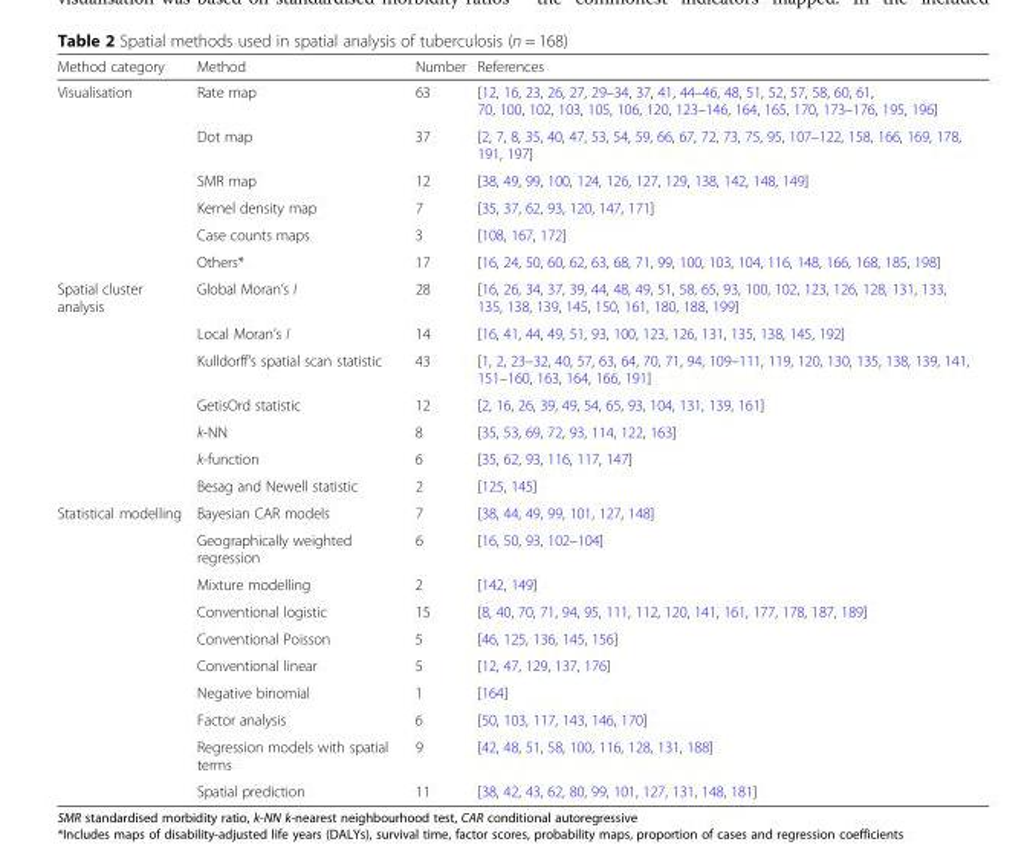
<table><thead><tr><td>Method category</td><td>Method</td><td>Number</td><td>References</td></tr></thead><tbody><tr><td rowspan="6">Visualisation</td><td>Rate map</td><td>63</td><td>[12, 16, 23, 26, 27, 29–34, 37, 41, 44–46, 48, 51, 52, 57, 58, 60, 61, 70, 100, 102, 103, 105, 106, 120, 123–146, 164, 165, 170, 173–176, 195, 196]</td></tr><tr><td>Dot map</td><td>37</td><td>[2, 7, 8, 35, 40, 47, 53, 54, 59, 66, 67, 72, 73, 75, 95, 107–122, 158, 166, 169, 178, 191, 197]</td></tr><tr><td>SMR map</td><td>12</td><td>[38, 49, 99, 100, 124, 126, 127, 129, 138, 142, 148, 149]</td></tr><tr><td>Kernel density map</td><td>7</td><td>[35, 37, 62, 93, 120, 147, 171]</td></tr><tr><td>Case counts maps</td><td>3</td><td>[108, 167, 172]</td></tr><tr><td>Others*</td><td>17</td><td>[16, 24, 50, 60, 62, 63, 68, 71, 99, 100, 103, 104, 116, 148, 166, 168, 185, 198]</td></tr><tr><td rowspan="7">Spatial cluster analysis</td><td>Global Moran’s I</td><td>28</td><td>[16, 26, 34, 37, 39, 44, 48, 49, 51, 58, 65, 93, 100, 102, 123, 126, 128, 131, 133, 135, 138, 139, 145, 150, 161, 180, 188, 199]</td></tr><tr><td>Local Moran’s I</td><td>14</td><td>[16, 41, 44, 49, 51, 93, 100, 123, 126, 131, 135, 138, 145, 192]</td></tr><tr><td>Kulldorff’s spatial scan statistic</td><td>43</td><td>[1, 2, 23–32, 40, 57, 63, 64, 70, 71, 94, 109–111, 119, 120, 130, 135, 138, 139, 141, 151–160, 163, 164, 166, 191]</td></tr><tr><td>GetisOrd statistic</td><td>12</td><td>[2, 16, 26, 39, 49, 54, 65, 93, 104, 131, 139, 161]</td></tr><tr><td>k-NN</td><td>8</td><td>[35, 53, 69, 72, 93, 114, 122, 163]</td></tr><tr><td>k-function</td><td>6</td><td>[35, 62, 93, 116, 117, 147]</td></tr><tr><td>Besag and Newell statistic</td><td>2</td><td>[125, 145]</td></tr><tr><td rowspan="10">Statistical modelling</td><td>Bayesian CAR models</td><td>7</td><td>[38, 44, 49, 99, 101, 127, 148]</td></tr><tr><td>Geographically weighted regression</td><td>6</td><td>[16, 50, 93, 102–104]</td></tr><tr><td>Mixture modelling</td><td>2</td><td>[142, 149]</td></tr><tr><td>Conventional logistic</td><td>15</td><td>[8, 40, 70, 71, 94, 95, 111, 112, 120, 141, 161, 177, 178, 187, 189]</td></tr><tr><td>Conventional Poisson</td><td>5</td><td>[46, 125, 136, 145, 156]</td></tr><tr><td>Conventional linear</td><td>5</td><td>[12, 47, 129, 137, 176]</td></tr><tr><td>Negative binomial</td><td>1</td><td>[164]</td></tr><tr><td>Factor analysis</td><td>6</td><td>[50, 103, 117, 143, 146, 170]</td></tr><tr><td>Regression models with spatial terms</td><td>9</td><td>[42, 48, 51, 58, 100, 116, 128, 131, 188]</td></tr><tr><td>Spatial prediction</td><td>11</td><td>[38, 42, 43, 62, 80, 99, 101, 127, 131, 148, 181]</td></tr></tbody></table>